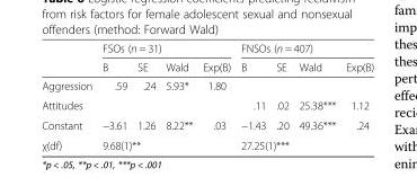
<table><thead><tr><td rowspan="2"></td><td colspan="4">FSOs (n = 31)</td><td colspan="4">FNSOs (n = 407)</td></tr><tr><td>B</td><td>SE</td><td>Wald</td><td>Exp(B)</td><td>B</td><td>SE</td><td>Wald</td><td>Exp(B)</td></tr></thead><tbody><tr><td>Aggression</td><td>.59</td><td>.24</td><td>5.93*</td><td>1.80</td><td></td><td></td><td></td><td></td></tr><tr><td>Attitudes</td><td></td><td></td><td></td><td></td><td>.11</td><td>.02</td><td>25.38***</td><td>1.12</td></tr><tr><td>Constant</td><td>−3.61</td><td>1.26</td><td>8.22**</td><td>.03</td><td>−1.43</td><td>.20</td><td>49.36***</td><td>.24</td></tr><tr><td>χ(df)</td><td colspan="4">9.68(1)**</td><td colspan="4">27.25(1)***</td></tr></tbody></table>